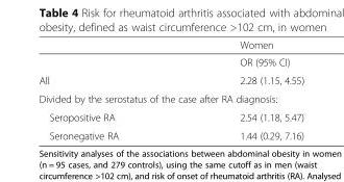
<table><thead><tr><td></td><td>Women</td></tr></thead><tbody><tr><td></td><td>OR (95% CI)</td></tr><tr><td>All</td><td>2.28 (1.15, 4.55)</td></tr><tr><td colspan="2">Divided by the serostatus of the case after RA diagnosis:</td></tr><tr><td>Seropositive RA</td><td>2.54 (1.18, 5.47)</td></tr><tr><td>Seronegative RA</td><td>1.44 (0.29, 7.16)</td></tr></tbody></table>